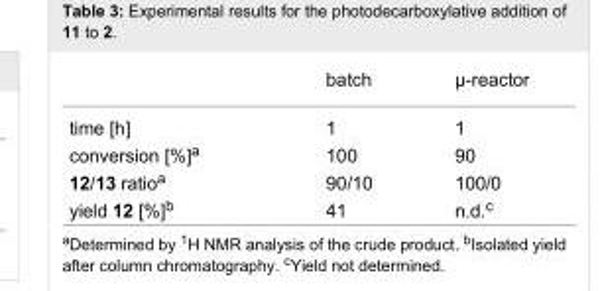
<table><thead><tr><td></td><td>batch</td><td>μ-reactor</td></tr></thead><tbody><tr><td>time [h]</td><td>1</td><td>1</td></tr><tr><td>conversion [%]<sup>a</sup></td><td>100</td><td>90</td></tr><tr><td>12/13 ratio<sup>a</sup></td><td>90/10</td><td>100/0</td></tr><tr><td>yield 12 [%]<sup>b</sup></td><td>41</td><td>n.d.<sup>c</sup></td></tr></tbody></table>